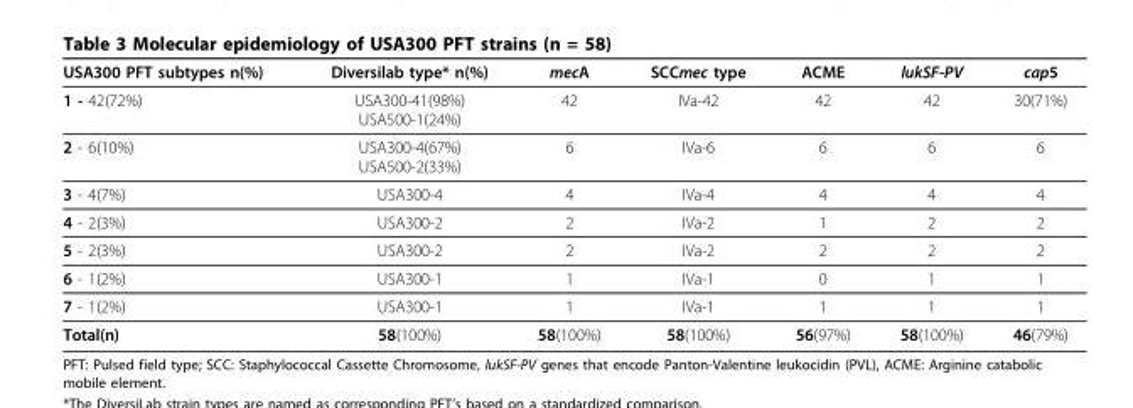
<table><thead><tr><td>USA300 PFT subtypes n(%)</td><td>Diversilab type* n(%)</td><td>mecA</td><td>SCCmec type</td><td>ACME</td><td>lukSF-PV</td><td>cap5</td></tr></thead><tbody><tr><td>1 - 42(72%)</td><td>USA300-41(98%) USA500-1(24%)</td><td>42</td><td>IVa-42</td><td>42</td><td>42</td><td>30(71%)</td></tr><tr><td>2 - 6(10%)</td><td>USA300-4(67%) USA500-2(33%)</td><td>6</td><td>IVa-6</td><td>6</td><td>6</td><td>6</td></tr><tr><td>3 - 4(7%)</td><td>USA300-4</td><td>4</td><td>IVa-4</td><td>4</td><td>4</td><td>4</td></tr><tr><td>4 - 2(3%)</td><td>USA300-2</td><td>2</td><td>IVa-2</td><td>1</td><td>2</td><td>2</td></tr><tr><td>5 - 2(3%)</td><td>USA300-2</td><td>2</td><td>IVa-2</td><td>2</td><td>2</td><td>2</td></tr><tr><td>6 - 1(2%)</td><td>USA300-1</td><td>1</td><td>IVa-1</td><td>0</td><td>1</td><td>1</td></tr><tr><td>7 - 1(2%)</td><td>USA300-1</td><td>1</td><td>IVa-1</td><td>1</td><td>1</td><td>1</td></tr><tr><td>Total(n)</td><td>58(100%)</td><td>58(100%)</td><td>58(100%)</td><td>56(97%)</td><td>58(100%)</td><td>46(79%)</td></tr></tbody></table>